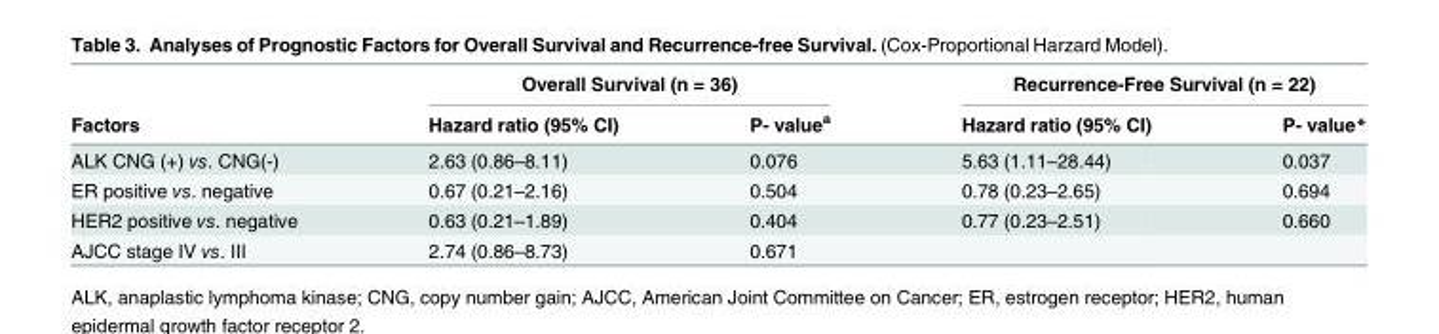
<table><thead><tr><td rowspan="2">Factors</td><td colspan="2">Overall Survival (n = 36)</td><td colspan="2">Recurrence-Free Survival (n = 22)</td></tr><tr><td>Hazard ratio (95% CI)</td><td>P- value<sup>a</sup></td><td>Hazard ratio (95% CI)</td><td>P- value*</td></tr></thead><tbody><tr><td>ALK CNG (+) vs. CNG(-)</td><td>2.63 (0.86–8.11)</td><td>0.076</td><td>5.63 (1.11–28.44)</td><td>0.037</td></tr><tr><td>ER positive vs. negative</td><td>0.67 (0.21–2.16)</td><td>0.504</td><td>0.78 (0.23–2.65)</td><td>0.694</td></tr><tr><td>HER2 positive vs. negative</td><td>0.63 (0.21–1.89)</td><td>0.404</td><td>0.77 (0.23–2.51)</td><td>0.660</td></tr><tr><td>AJCC stage IV vs. III</td><td>2.74 (0.86–8.73)</td><td>0.671</td><td></td><td></td></tr></tbody></table>